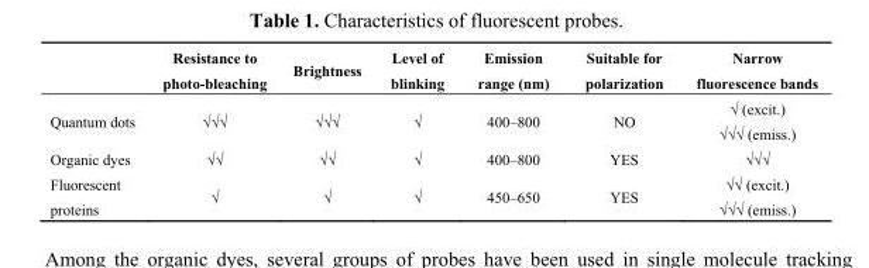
<table><thead><tr><td></td><td>Resistance to photo-bleaching</td><td>Brightness</td><td>Level of blinking</td><td>Emission range (nm)</td><td>Suitable for polarization</td><td>Narrow fluorescence bands</td></tr></thead><tbody><tr><td>Quantum dots</td><td>√√√</td><td>√√√</td><td>√</td><td>400–800</td><td>NO</td><td>√ (excit.) √√√ (emiss.)</td></tr><tr><td>Organic dyes</td><td>√√</td><td>√√</td><td>√</td><td>400–800</td><td>YES</td><td>√√√</td></tr><tr><td>Fluorescent proteins</td><td>√</td><td>√</td><td>√</td><td>450–650</td><td>YES</td><td>√√ (excit.) √√√ (emiss.)</td></tr></tbody></table>